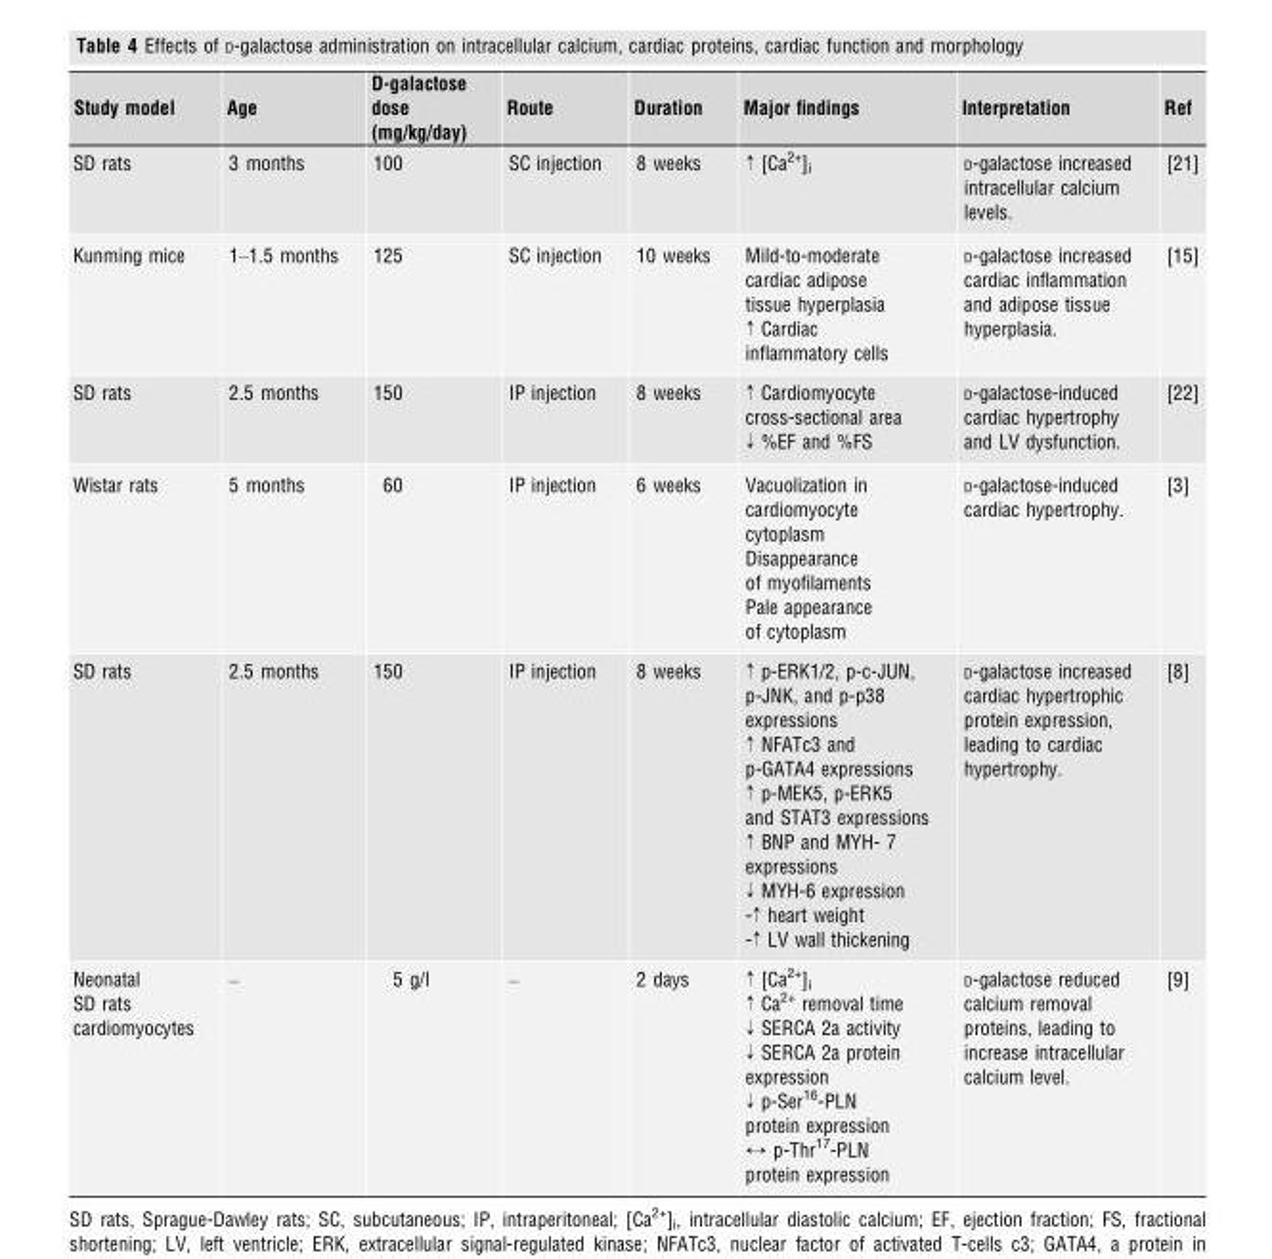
<table><thead><tr><td>Study model</td><td>Age</td><td>D-galactose dose (mg/kg/day)</td><td>Route</td><td>Duration</td><td>Major findings</td><td>Interpretation</td><td>Ref</td></tr></thead><tbody><tr><td>SD rats</td><td>3 months</td><td>100</td><td>SC injection</td><td>8 weeks</td><td>↑ [Ca<sup>2+</sup>]<sub>i</sub></td><td>D-galactose increased intracellular calcium levels.</td><td>[21]</td></tr><tr><td>Kunming mice</td><td>1–1.5 months</td><td>125</td><td>SC injection</td><td>10 weeks</td><td>Mild-to-moderate cardiac adipose tissue hyperplasia ↑ Cardiac inflammatory cells</td><td>D-galactose increased cardiac inflammation and adipose tissue hyperplasia.</td><td>[15]</td></tr><tr><td>SD rats</td><td>2.5 months</td><td>150</td><td>IP injection</td><td>8 weeks</td><td>↑ Cardiomyocyte cross-sectional area ↓ %EF and %FS</td><td>D-galactose-induced cardiac hypertrophy and LV dysfunction.</td><td>[22]</td></tr><tr><td>Wistar rats</td><td>5 months</td><td>60</td><td>IP injection</td><td>6 weeks</td><td>Vacuolization in cardiomyocyte cytoplasm Disappearance of myofilaments Pale appearance of cytoplasm</td><td>D-galactose-induced cardiac hypertrophy.</td><td>[3]</td></tr><tr><td>SD rats</td><td>2.5 months</td><td>150</td><td>IP injection</td><td>8 weeks</td><td>↑ p-ERK1/2, p-c-JUN, p-JNK, and p-p38 expressions ↑ NFATc3 and p-GATA4 expressions ↑ p-MEK5, p-ERK5 and STAT3 expressions ↑ BNP and MYH- 7 expressions ↓ MYH-6 expression -↑ heart weight -↑ LV wall thickening</td><td>D-galactose increased cardiac hypertrophic protein expression, leading to cardiac hypertrophy.</td><td>[8]</td></tr><tr><td>Neonatal SD rats cardiomyocytes</td><td>–</td><td>5 g/l</td><td>–</td><td>2 days</td><td>↑ [Ca<sup>2+</sup>]<sub>i</sub> ↑ Ca<sup>2+</sup> removal time ↓ SERCA 2a activity ↓ SERCA 2a protein expression ↓ p-Ser<sup>16</sup>-PLN protein expression ↔ p-Thr<sup>17</sup>-PLN protein expression</td><td>D-galactose reduced calcium removal proteins, leading to increase intracellular calcium level.</td><td>[9]</td></tr></tbody></table>